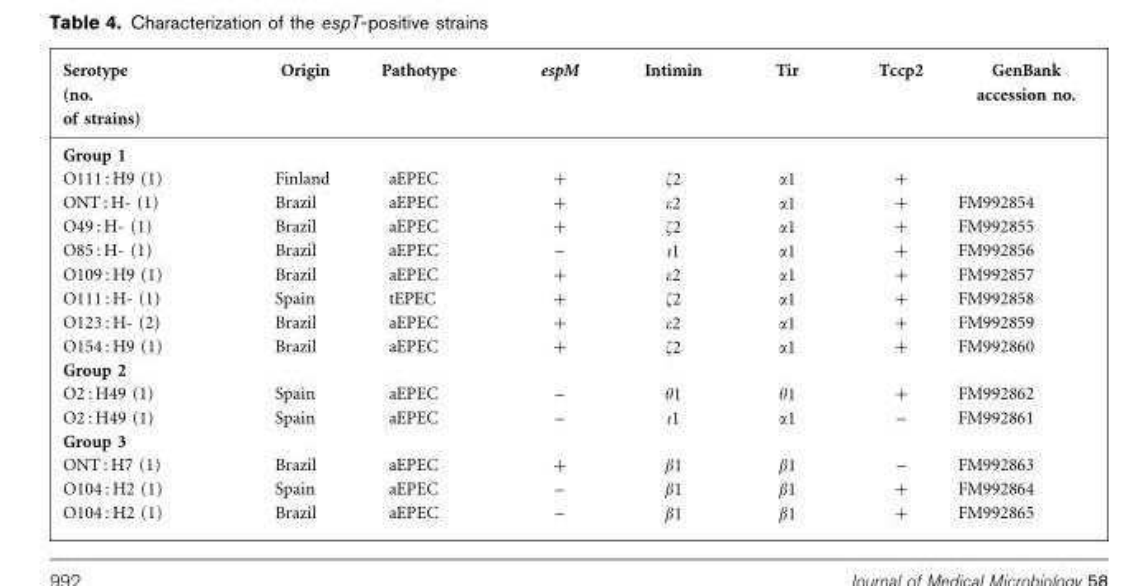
<table><thead><tr><td>Serotype (no. of strains)</td><td>Origin</td><td>Pathotype</td><td>espM</td><td>Intimin</td><td>Tir</td><td>Tccp2</td><td>GenBank accession no.</td></tr></thead><tbody><tr><td colspan="8">Group 1</td></tr><tr><td>O111 : H9 (1)</td><td>Finland</td><td>aEPEC</td><td>+</td><td>ζ2</td><td>α1</td><td>+</td><td></td></tr><tr><td>ONT : H- (1)</td><td>Brazil</td><td>aEPEC</td><td>+</td><td>ε2</td><td>α1</td><td>+</td><td>FM992854</td></tr><tr><td>O49 : H- (1)</td><td>Brazil</td><td>aEPEC</td><td>+</td><td>ζ2</td><td>α1</td><td>+</td><td>FM992855</td></tr><tr><td>O85 : H- (1)</td><td>Brazil</td><td>aEPEC</td><td>–</td><td>ι1</td><td>α1</td><td>+</td><td>FM992856</td></tr><tr><td>O109 : H9 (1)</td><td>Brazil</td><td>aEPEC</td><td>+</td><td>ε2</td><td>α1</td><td>+</td><td>FM992857</td></tr><tr><td>O111 : H- (1)</td><td>Spain</td><td>tEPEC</td><td>+</td><td>ζ2</td><td>α1</td><td>+</td><td>FM992858</td></tr><tr><td>O123 : H- (2)</td><td>Brazil</td><td>aEPEC</td><td>+</td><td>ε2</td><td>α1</td><td>+</td><td>FM992859</td></tr><tr><td>O154 : H9 (1)</td><td>Brazil</td><td>aEPEC</td><td>+</td><td>ζ2</td><td>α1</td><td>+</td><td>FM992860</td></tr><tr><td colspan="8">Group 2</td></tr><tr><td>O2 : H49 (1)</td><td>Spain</td><td>aEPEC</td><td>–</td><td>θ1</td><td>θ1</td><td>+</td><td>FM992862</td></tr><tr><td>O2 : H49 (1)</td><td>Spain</td><td>aEPEC</td><td>–</td><td>ι1</td><td>α1</td><td>–</td><td>FM992861</td></tr><tr><td colspan="8">Group 3</td></tr><tr><td>ONT : H7 (1)</td><td>Brazil</td><td>aEPEC</td><td>+</td><td>β1</td><td>β1</td><td>–</td><td>FM992863</td></tr><tr><td>O104 : H2 (1)</td><td>Spain</td><td>aEPEC</td><td>–</td><td>β1</td><td>β1</td><td>+</td><td>FM992864</td></tr><tr><td>O104 : H2 (1)</td><td>Brazil</td><td>aEPEC</td><td>–</td><td>β1</td><td>β1</td><td>+</td><td>FM992865</td></tr></tbody></table>